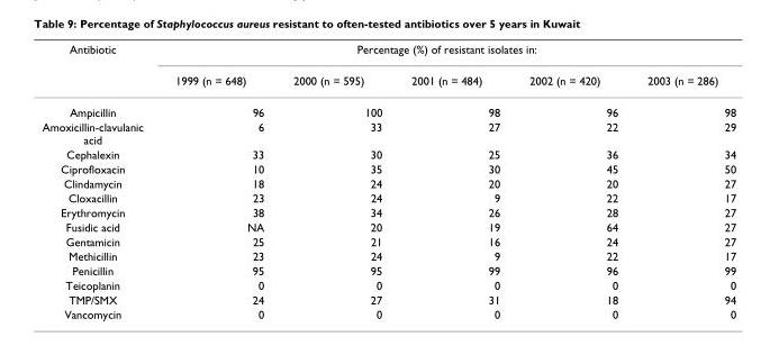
<table><thead><tr><td rowspan="2">Antibiotic</td><td colspan="5">Percentage (%) of resistant isolates in:</td></tr><tr><td>1999 (n = 648)</td><td>2000 (n = 595)</td><td>2001 (n = 484)</td><td>2002 (n = 420)</td><td>2003 (n = 286)</td></tr></thead><tbody><tr><td>Ampicillin</td><td>96</td><td>100</td><td>98</td><td>96</td><td>98</td></tr><tr><td>Amoxicillin-clavulanic acid</td><td>6</td><td>33</td><td>27</td><td>22</td><td>29</td></tr><tr><td>Cephalexin</td><td>33</td><td>30</td><td>25</td><td>36</td><td>34</td></tr><tr><td>Ciprofloxacin</td><td>10</td><td>35</td><td>30</td><td>45</td><td>50</td></tr><tr><td>Clindamycin</td><td>18</td><td>24</td><td>20</td><td>20</td><td>27</td></tr><tr><td>Cloxacillin</td><td>23</td><td>24</td><td>9</td><td>22</td><td>17</td></tr><tr><td>Erythromycin</td><td>38</td><td>34</td><td>26</td><td>28</td><td>27</td></tr><tr><td>Fusidic acid</td><td>NA</td><td>20</td><td>19</td><td>64</td><td>27</td></tr><tr><td>Gentamicin</td><td>25</td><td>21</td><td>16</td><td>24</td><td>27</td></tr><tr><td>Methicillin</td><td>23</td><td>24</td><td>9</td><td>22</td><td>17</td></tr><tr><td>Penicillin</td><td>95</td><td>95</td><td>99</td><td>96</td><td>99</td></tr><tr><td>Teicoplanin</td><td>0</td><td>0</td><td>0</td><td>0</td><td>0</td></tr><tr><td>TMP/SMX</td><td>24</td><td>27</td><td>31</td><td>18</td><td>94</td></tr><tr><td>Vancomycin</td><td>0</td><td>0</td><td>0</td><td>0</td><td>0</td></tr></tbody></table>